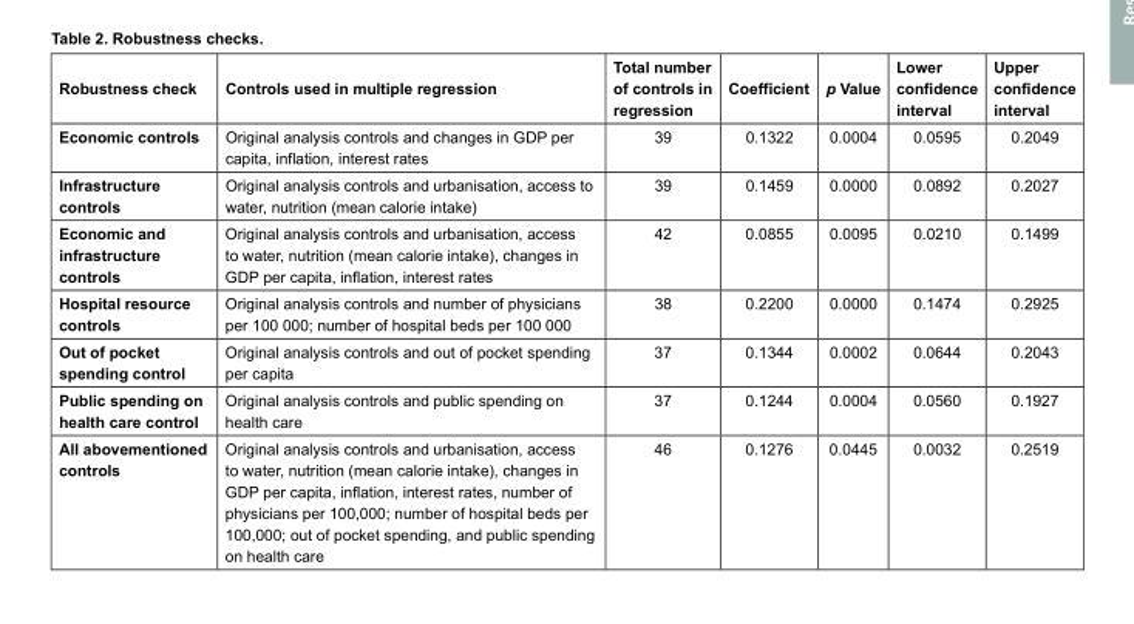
<table><thead><tr><td>Robustness check</td><td>Controls used in multiple regression</td><td>Total number of controls in regression</td><td>Coefficient</td><td>p Value</td><td>Lower confidence interval</td><td>Upper confidence interval</td></tr></thead><tbody><tr><td>Economic controls</td><td>Original analysis controls and changes in GDP per capita, inflation, interest rates</td><td>39</td><td>0.1322</td><td>0.0004</td><td>0.0595</td><td>0.2049</td></tr><tr><td>Infrastructure controls</td><td>Original analysis controls and urbanisation, access to water, nutrition (mean calorie intake)</td><td>39</td><td>0.1459</td><td>0.0000</td><td>0.0892</td><td>0.2027</td></tr><tr><td>Economic and infrastructure controls</td><td>Original analysis controls and urbanisation, access to water, nutrition (mean calorie intake), changes in GDP per capita, inflation, interest rates</td><td>42</td><td>0.0855</td><td>0.0095</td><td>0.0210</td><td>0.1499</td></tr><tr><td>Hospital resource controls</td><td>Original analysis controls and number of physicians per 100 000; number of hospital beds per 100 000</td><td>38</td><td>0.2200</td><td>0.0000</td><td>0.1474</td><td>0.2925</td></tr><tr><td>Out of pocket spending control</td><td>Original analysis controls and out of pocket spending per capita</td><td>37</td><td>0.1344</td><td>0.0002</td><td>0.0644</td><td>0.2043</td></tr><tr><td>Public spending on health care control</td><td>Original analysis controls and public spending on health care</td><td>37</td><td>0.1244</td><td>0.0004</td><td>0.0560</td><td>0.1927</td></tr><tr><td>All abovementioned controls</td><td>Original analysis controls and urbanisation, access to water, nutrition (mean calorie intake), changes in GDP per capita, inflation, interest rates, number of physicians per 100,000; number of hospital beds per 100,000; out of pocket spending, and public spending on health care</td><td>46</td><td>0.1276</td><td>0.0445</td><td>0.0032</td><td>0.2519</td></tr></tbody></table>